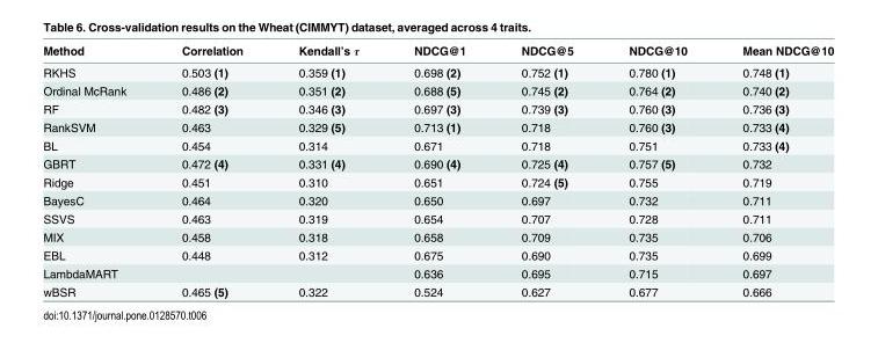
<table><thead><tr><td>Method</td><td>Correlation</td><td>Kendall’s τ</td><td>NDCG@1</td><td>NDCG@5</td><td>NDCG@10</td><td>Mean NDCG@10</td></tr></thead><tbody><tr><td>RKHS</td><td>0.503 (1)</td><td>0.359 (1)</td><td>0.698 (2)</td><td>0.752 (1)</td><td>0.780 (1)</td><td>0.748 (1)</td></tr><tr><td>Ordinal McRank</td><td>0.486 (2)</td><td>0.351 (2)</td><td>0.688 (5)</td><td>0.745 (2)</td><td>0.764 (2)</td><td>0.740 (2)</td></tr><tr><td>RF</td><td>0.482 (3)</td><td>0.346 (3)</td><td>0.697 (3)</td><td>0.739 (3)</td><td>0.760 (3)</td><td>0.736 (3)</td></tr><tr><td>RankSVM</td><td>0.463</td><td>0.329 (5)</td><td>0.713 (1)</td><td>0.718</td><td>0.760 (3)</td><td>0.733 (4)</td></tr><tr><td>BL</td><td>0.454</td><td>0.314</td><td>0.671</td><td>0.718</td><td>0.751</td><td>0.733 (4)</td></tr><tr><td>GBRT</td><td>0.472 (4)</td><td>0.331 (4)</td><td>0.690 (4)</td><td>0.725 (4)</td><td>0.757 (5)</td><td>0.732</td></tr><tr><td>Ridge</td><td>0.451</td><td>0.310</td><td>0.651</td><td>0.724 (5)</td><td>0.755</td><td>0.719</td></tr><tr><td>BayesC</td><td>0.464</td><td>0.320</td><td>0.650</td><td>0.697</td><td>0.732</td><td>0.711</td></tr><tr><td>SSVS</td><td>0.463</td><td>0.319</td><td>0.654</td><td>0.707</td><td>0.728</td><td>0.711</td></tr><tr><td>MIX</td><td>0.458</td><td>0.318</td><td>0.658</td><td>0.709</td><td>0.735</td><td>0.706</td></tr><tr><td>EBL</td><td>0.448</td><td>0.312</td><td>0.675</td><td>0.690</td><td>0.735</td><td>0.699</td></tr><tr><td>LambdaMART</td><td></td><td></td><td>0.636</td><td>0.695</td><td>0.715</td><td>0.697</td></tr><tr><td>wBSR</td><td>0.465 (5)</td><td>0.322</td><td>0.524</td><td>0.627</td><td>0.677</td><td>0.666</td></tr></tbody></table>